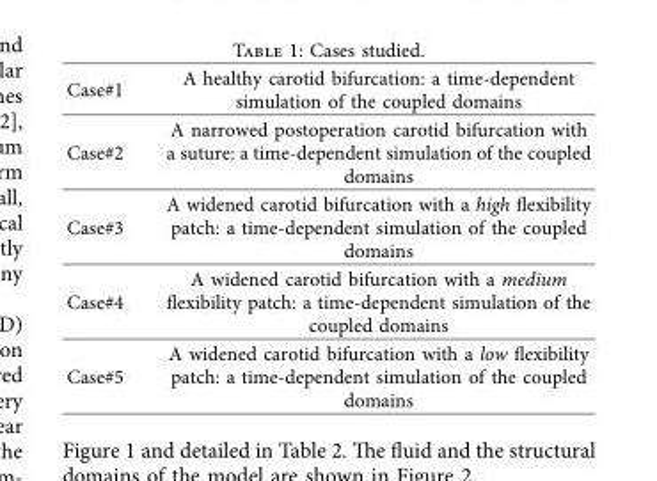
<table><tbody><tr><td>Case#1</td><td>A healthy carotid bifurcation: a time-dependent simulation of the coupled domains</td></tr><tr><td>Case#2</td><td>A narrowed postoperation carotid bifurcation with a suture: a time-dependent simulation of the coupled domains</td></tr><tr><td>Case#3</td><td>A widened carotid bifurcation with a high flexibility patch: a time-dependent simulation of the coupled domains</td></tr><tr><td>Case#4</td><td>A widened carotid bifurcation with a medium flexibility patch: a time-dependent simulation of the coupled domains</td></tr><tr><td>Case#5</td><td>A widened carotid bifurcation with a low flexibility patch: a time-dependent simulation of the coupled domains</td></tr></tbody></table>